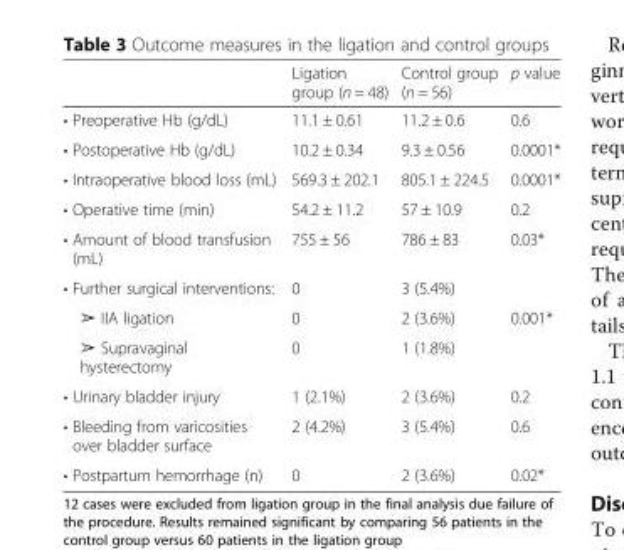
<table><thead><tr><td></td><td>Ligation group (n = 48)</td><td>Control group (n = 56)</td><td>p value</td></tr></thead><tbody><tr><td>• Preoperative Hb (g/dL)</td><td>11.1 ± 0.61</td><td>11.2 ± 0.6</td><td>0.6</td></tr><tr><td>• Postoperative Hb (g/dL)</td><td>10.2 ± 0.34</td><td>9.3 ± 0.56</td><td>0.0001*</td></tr><tr><td>• Intraoperative blood loss (mL)</td><td>569.3 ± 202.1</td><td>805.1 ± 224.5</td><td>0.0001*</td></tr><tr><td>• Operative time (min)</td><td>54.2 ± 11.2</td><td>57 ± 10.9</td><td>0.2</td></tr><tr><td>• Amount of blood transfusion (mL)</td><td>755 ± 56</td><td>786 ± 83</td><td>0.03*</td></tr><tr><td>• Further surgical interventions:</td><td>0</td><td>3 (5.4%)</td><td></td></tr><tr><td>➢ IIA ligation</td><td>0</td><td>2 (3.6%)</td><td rowspan="2">0.001*</td></tr><tr><td>➢ Supravaginal hysterectomy</td><td>0</td><td>1 (1.8%)</td></tr><tr><td>• Urinary bladder injury</td><td>1 (2.1%)</td><td>2 (3.6%)</td><td>0.2</td></tr><tr><td>• Bleeding from varicosities over bladder surface</td><td>2 (4.2%)</td><td>3 (5.4%)</td><td>0.6</td></tr><tr><td>• Postpartum hemorrhage (n)</td><td>0</td><td>2 (3.6%)</td><td>0.02*</td></tr></tbody></table>